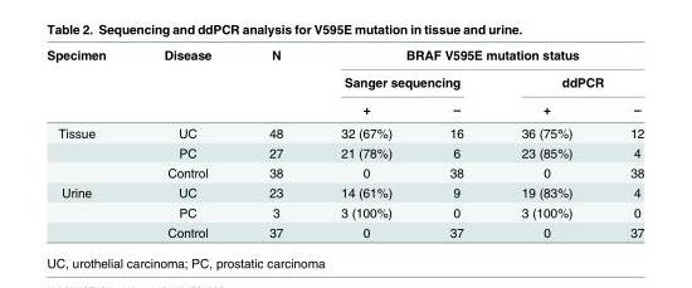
<table><thead><tr><td rowspan="3">Specimen</td><td rowspan="3">Disease</td><td rowspan="3">N</td><td colspan="4">BRAF V595E mutation status</td></tr><tr><td colspan="2">Sanger sequencing</td><td colspan="2">ddPCR</td></tr><tr><td>+</td><td>–</td><td>+</td><td>–</td></tr></thead><tbody><tr><td rowspan="3">Tissue</td><td>UC</td><td>48</td><td>32 (67%)</td><td>16</td><td>36 (75%)</td><td>12</td></tr><tr><td>PC</td><td>27</td><td>21 (78%)</td><td>6</td><td>23 (85%)</td><td>4</td></tr><tr><td>Control</td><td>38</td><td>0</td><td>38</td><td>0</td><td>38</td></tr><tr><td rowspan="3">Urine</td><td>UC</td><td>23</td><td>14 (61%)</td><td>9</td><td>19 (83%)</td><td>4</td></tr><tr><td>PC</td><td>3</td><td>3 (100%)</td><td>0</td><td>3 (100%)</td><td>0</td></tr><tr><td>Control</td><td>37</td><td>0</td><td>37</td><td>0</td><td>37</td></tr></tbody></table>